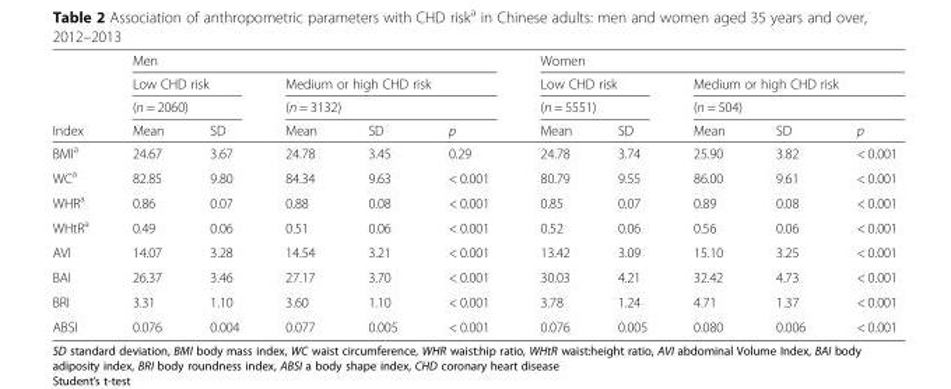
<table><thead><tr><td rowspan="4">Index</td><td colspan="5">Men</td><td colspan="5">Women</td></tr><tr><td rowspan="2" colspan="2">Low CHD risk (n = 2060)</td><td rowspan="2" colspan="3">Medium or high CHD risk (n = 3132)</td><td rowspan="2" colspan="2">Low CHD risk (n = 5551)</td><td rowspan="2" colspan="3">Medium or high CHD risk (n = 504)</td></tr><tr></tr><tr><td>Mean</td><td>SD</td><td>Mean</td><td>SD</td><td>p</td><td>Mean</td><td>SD</td><td>Mean</td><td>SD</td><td>p</td></tr></thead><tbody><tr><td>BMI<sup>a</sup></td><td>24.67</td><td>3.67</td><td>24.78</td><td>3.45</td><td>0.29</td><td>24.78</td><td>3.74</td><td>25.90</td><td>3.82</td><td>&lt; 0.001</td></tr><tr><td>WC<sup>a</sup></td><td>82.85</td><td>9.80</td><td>84.34</td><td>9.63</td><td>&lt; 0.001</td><td>80.79</td><td>9.55</td><td>86.00</td><td>9.61</td><td>&lt; 0.001</td></tr><tr><td>WHR<sup>a</sup></td><td>0.86</td><td>0.07</td><td>0.88</td><td>0.08</td><td>&lt; 0.001</td><td>0.85</td><td>0.07</td><td>0.89</td><td>0.08</td><td>&lt; 0.001</td></tr><tr><td>WHtR<sup>a</sup></td><td>0.49</td><td>0.06</td><td>0.51</td><td>0.06</td><td>&lt; 0.001</td><td>0.52</td><td>0.06</td><td>0.56</td><td>0.06</td><td>&lt; 0.001</td></tr><tr><td>AVI</td><td>14.07</td><td>3.28</td><td>14.54</td><td>3.21</td><td>&lt; 0.001</td><td>13.42</td><td>3.09</td><td>15.10</td><td>3.25</td><td>&lt; 0.001</td></tr><tr><td>BAI</td><td>26.37</td><td>3.46</td><td>27.17</td><td>3.70</td><td>&lt; 0.001</td><td>30.03</td><td>4.21</td><td>32.42</td><td>4.73</td><td>&lt; 0.001</td></tr><tr><td>BRI</td><td>3.31</td><td>1.10</td><td>3.60</td><td>1.10</td><td>&lt; 0.001</td><td>3.78</td><td>1.24</td><td>4.71</td><td>1.37</td><td>&lt; 0.001</td></tr><tr><td>ABSI</td><td>0.076</td><td>0.004</td><td>0.077</td><td>0.005</td><td>&lt; 0.001</td><td>0.076</td><td>0.005</td><td>0.080</td><td>0.006</td><td>&lt; 0.001</td></tr></tbody></table>